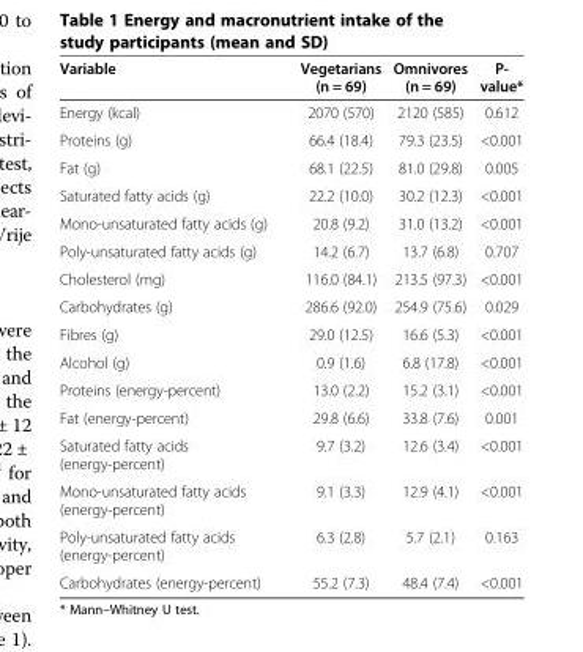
<table><thead><tr><td>Variable</td><td>Vegetarians (n = 69)</td><td>Omnivores (n = 69)</td><td>P- value*</td></tr></thead><tbody><tr><td>Energy (kcal)</td><td>2070 (570)</td><td>2120 (585)</td><td>0.612</td></tr><tr><td>Proteins (g)</td><td>66.4 (18.4)</td><td>79.3 (23.5)</td><td>&lt;0.001</td></tr><tr><td>Fat (g)</td><td>68.1 (22.5)</td><td>81.0 (29.8)</td><td>0.005</td></tr><tr><td>Saturated fatty acids (g)</td><td>22.2 (10.0)</td><td>30.2 (12.3)</td><td>&lt;0.001</td></tr><tr><td>Mono-unsaturated fatty acids (g)</td><td>20.8 (9.2)</td><td>31.0 (13.2)</td><td>&lt;0.001</td></tr><tr><td>Poly-unsaturated fatty acids (g)</td><td>14.2 (6.7)</td><td>13.7 (6.8)</td><td>0.707</td></tr><tr><td>Cholesterol (mg)</td><td>116.0 (84.1)</td><td>213.5 (97.3)</td><td>&lt;0.001</td></tr><tr><td>Carbohydrates (g)</td><td>286.6 (92.0)</td><td>254.9 (75.6)</td><td>0.029</td></tr><tr><td>Fibres (g)</td><td>29.0 (12.5)</td><td>16.6 (5.3)</td><td>&lt;0.001</td></tr><tr><td>Alcohol (g)</td><td>0.9 (1.6)</td><td>6.8 (17.8)</td><td>&lt;0.001</td></tr><tr><td>Proteins (energy-percent)</td><td>13.0 (2.2)</td><td>15.2 (3.1)</td><td>&lt;0.001</td></tr><tr><td>Fat (energy-percent)</td><td>29.8 (6.6)</td><td>33.8 (7.6)</td><td>0.001</td></tr><tr><td>Saturated fatty acids (energy-percent)</td><td>9.7 (3.2)</td><td>12.6 (3.4)</td><td>&lt;0.001</td></tr><tr><td>Mono-unsaturated fatty acids (energy-percent)</td><td>9.1 (3.3)</td><td>12.9 (4.1)</td><td>&lt;0.001</td></tr><tr><td>Poly-unsaturated fatty acids (energy-percent)</td><td>6.3 (2.8)</td><td>5.7 (2.1)</td><td>0.163</td></tr><tr><td>Carbohydrates (energy-percent)</td><td>55.2 (7.3)</td><td>48.4 (7.4)</td><td>&lt;0.001</td></tr></tbody></table>